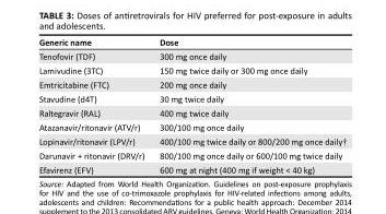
<table><thead><tr><td>Generic name</td><td>Dose</td></tr></thead><tbody><tr><td>Tenofovir (TDF)</td><td>300 mg once daily</td></tr><tr><td>Lamivudine (3TC)</td><td>150 mg twice daily or 300 mg once daily</td></tr><tr><td>Emtricitabine (FTC)</td><td>200 mg once daily</td></tr><tr><td>Stavudine (d4T)</td><td>30 mg twice daily</td></tr><tr><td>Raltegravir (RAL)</td><td>400 mg twice daily</td></tr><tr><td>Atazanavir/ritonavir (ATV/r)</td><td>300/100 mg once daily</td></tr><tr><td>Lopinavir/ritonavir (LPV/r)</td><td>400/100 mg twice daily or 800/200 mg once daily†</td></tr><tr><td>Darunavir + ritonavir (DRV/r)</td><td>800/100 mg once daily or 600/100 mg twice daily</td></tr><tr><td>Efavirenz (EFV)</td><td>600 mg at night (400 mg if weight &lt; 40 kg)</td></tr></tbody></table>